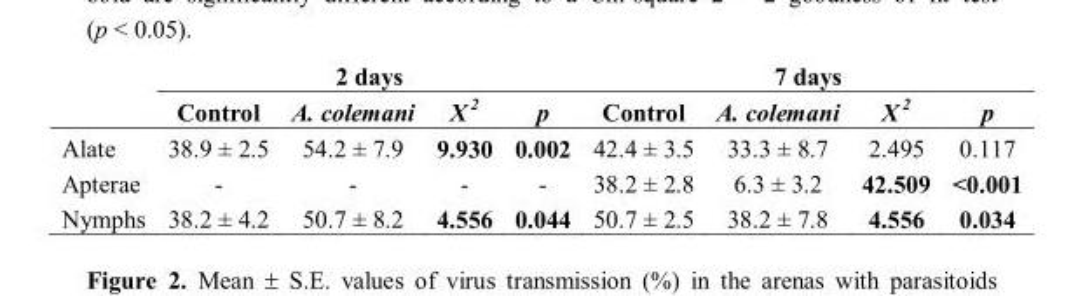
<table><thead><tr><td rowspan="2"></td><td colspan="4">2 days</td><td colspan="4">7 days</td></tr><tr><td>Control</td><td>A. colemani</td><td>X <sup>2</sup></td><td>p</td><td>Control</td><td>A. colemani</td><td>X <sup>2</sup></td><td>p</td></tr></thead><tbody><tr><td>Alate</td><td>38.9 ± 2.5</td><td>54.2 ± 7.9</td><td>9.930</td><td>0.002</td><td>42.4 ± 3.5</td><td>33.3 ± 8.7</td><td>2.495</td><td>0.117</td></tr><tr><td>Apterae</td><td>-</td><td>-</td><td>-</td><td>-</td><td>38.2 ± 2.8</td><td>6.3 ± 3.2</td><td>42.509</td><td>&lt;0.001</td></tr><tr><td>Nymphs</td><td>38.2 ± 4.2</td><td>50.7 ± 8.2</td><td>4.556</td><td>0.044</td><td>50.7 ± 2.5</td><td>38.2 ± 7.8</td><td>4.556</td><td>0.034</td></tr></tbody></table>